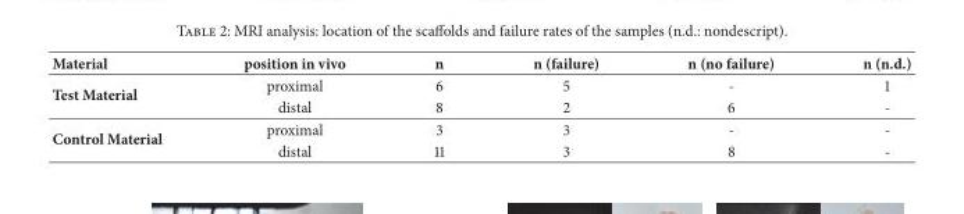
<table><thead><tr><td>Material</td><td>position in vivo</td><td>n</td><td>n (failure)</td><td>n (no failure)</td><td>n (n.d.)</td></tr></thead><tbody><tr><td rowspan="2">Test Material</td><td>proximal</td><td>6</td><td>5</td><td>-</td><td>1</td></tr><tr><td>distal</td><td>8</td><td>2</td><td>6</td><td>-</td></tr><tr><td rowspan="2">Control Material</td><td>proximal</td><td>3</td><td>3</td><td>-</td><td>-</td></tr><tr><td>distal</td><td>11</td><td>3</td><td>8</td><td>-</td></tr></tbody></table>